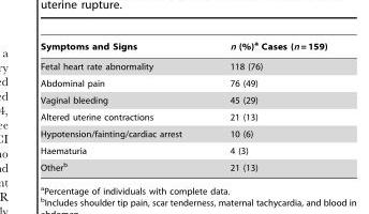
<table><thead><tr><td>Symptoms and Signs</td><td>n (%)<sup>a</sup> Cases (n = 159)</td></tr></thead><tbody><tr><td>Fetal heart rate abnormality</td><td>118 (76)</td></tr><tr><td>Abdominal pain</td><td>76 (49)</td></tr><tr><td>Vaginal bleeding</td><td>45 (29)</td></tr><tr><td>Altered uterine contractions</td><td>21 (13)</td></tr><tr><td>Hypotension/fainting/cardiac arrest</td><td>10 (6)</td></tr><tr><td>Haematuria</td><td>4 (3)</td></tr><tr><td>Other<sup>b</sup></td><td>21 (13)</td></tr></tbody></table>